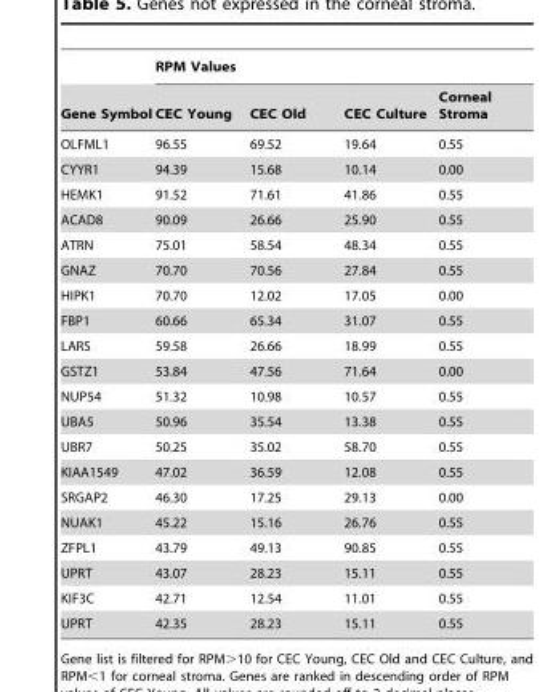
<table><thead><tr><td rowspan="2">Gene Symbol</td><td colspan="4">RPM Values</td></tr><tr><td>CEC Young</td><td>CEC Old</td><td>CEC Culture</td><td>Corneal Stroma</td></tr></thead><tbody><tr><td>OLFML1</td><td>96.55</td><td>69.52</td><td>19.64</td><td>0.55</td></tr><tr><td>CYYR1</td><td>94.39</td><td>15.68</td><td>10.14</td><td>0.00</td></tr><tr><td>HEMK1</td><td>91.52</td><td>71.61</td><td>41.86</td><td>0.55</td></tr><tr><td>ACAD8</td><td>90.09</td><td>26.66</td><td>25.90</td><td>0.55</td></tr><tr><td>ATRN</td><td>75.01</td><td>58.54</td><td>48.34</td><td>0.55</td></tr><tr><td>GNAZ</td><td>70.70</td><td>70.56</td><td>27.84</td><td>0.55</td></tr><tr><td>HIPK1</td><td>70.70</td><td>12.02</td><td>17.05</td><td>0.00</td></tr><tr><td>FBP1</td><td>60.66</td><td>65.34</td><td>31.07</td><td>0.55</td></tr><tr><td>LARS</td><td>59.58</td><td>26.66</td><td>18.99</td><td>0.55</td></tr><tr><td>GSTZ1</td><td>53.84</td><td>47.56</td><td>71.64</td><td>0.00</td></tr><tr><td>NUP54</td><td>51.32</td><td>10.98</td><td>10.57</td><td>0.55</td></tr><tr><td>UBA5</td><td>50.96</td><td>35.54</td><td>13.38</td><td>0.55</td></tr><tr><td>UBR7</td><td>50.25</td><td>35.02</td><td>58.70</td><td>0.55</td></tr><tr><td>KIAA1549</td><td>47.02</td><td>36.59</td><td>12.08</td><td>0.55</td></tr><tr><td>SRGAP2</td><td>46.30</td><td>17.25</td><td>29.13</td><td>0.00</td></tr><tr><td>NUAK1</td><td>45.22</td><td>15.16</td><td>26.76</td><td>0.55</td></tr><tr><td>ZFPL1</td><td>43.79</td><td>49.13</td><td>90.85</td><td>0.55</td></tr><tr><td>UPRT</td><td>43.07</td><td>28.23</td><td>15.11</td><td>0.55</td></tr><tr><td>KIF3C</td><td>42.71</td><td>12.54</td><td>11.01</td><td>0.55</td></tr><tr><td>UPRT</td><td>42.35</td><td>28.23</td><td>15.11</td><td>0.55</td></tr></tbody></table>